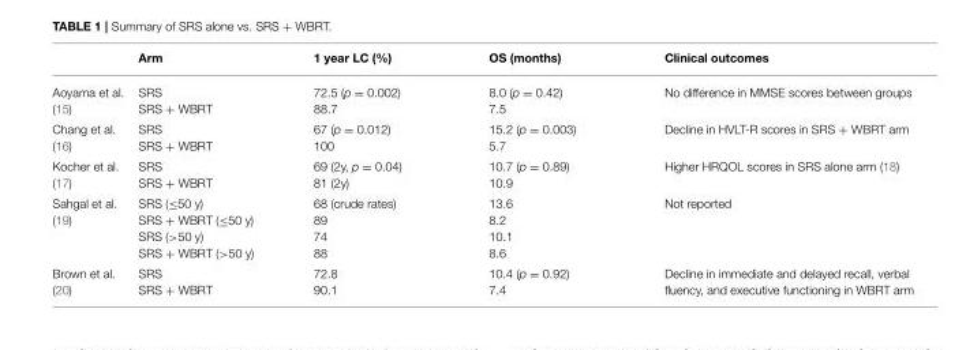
<table><thead><tr><td></td><td>Arm</td><td>1 year LC (%)</td><td>OS (months)</td><td>Clinical outcomes</td></tr></thead><tbody><tr><td>Aoyama et al. (15)</td><td>SRS SRS + WBRT</td><td>72.5 (p = 0.002) 88.7</td><td>8.0 (p = 0.42) 7.5</td><td>No difference in MMSE scores between groups</td></tr><tr><td>Chang et al. (16)</td><td>SRS SRS + WBRT</td><td>67 (p = 0.012) 100</td><td>15.2 (p = 0.003) 5.7</td><td>Decline in HVLT-R scores in SRS + WBRT arm</td></tr><tr><td>Kocher et al. (17)</td><td>SRS SRS + WBRT</td><td>69 (2y, p = 0.04) 81 (2y)</td><td>10.7 (p = 0.89) 10.9</td><td>Higher HRQOL scores in SRS alone arm (18)</td></tr><tr><td>Sahgal et al. (19)</td><td>SRS (≤50 y) SRS + WBRT (≤50 y) SRS (&gt;50 y) SRS + WBRT (&gt;50 y)</td><td>68 (crude rates) 89 74 88</td><td>13.6 8.2 10.1 8.6</td><td>Not reported</td></tr><tr><td>Brown et al. (20)</td><td>SRS SRS + WBRT</td><td>72.8 90.1</td><td>10.4 (p = 0.92) 7.4</td><td>Decline in immediate and delayed recall, verbal fluency, and executive functioning in WBRT arm</td></tr></tbody></table>